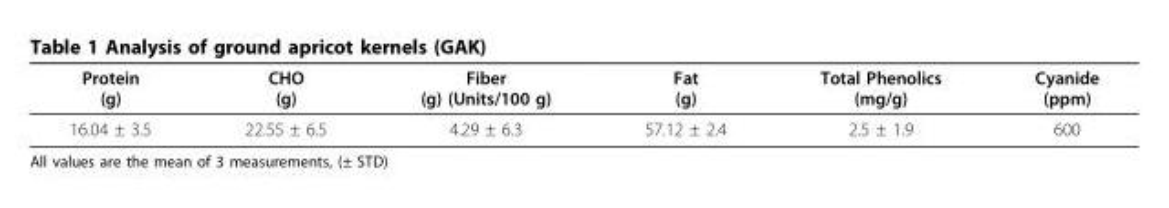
<table><thead><tr><td>Protein (g)</td><td>CHO (g)</td><td>Fiber (g) (Units/100 g)</td><td>Fat (g)</td><td>Total Phenolics (mg/g)</td><td>Cyanide (ppm)</td></tr></thead><tbody><tr><td>16.04 ± 3.5</td><td>22.55 ± 6.5</td><td>4.29 ± 6.3</td><td>57.12 ± 2.4</td><td>2.5 ± 1.9</td><td>600</td></tr></tbody></table>